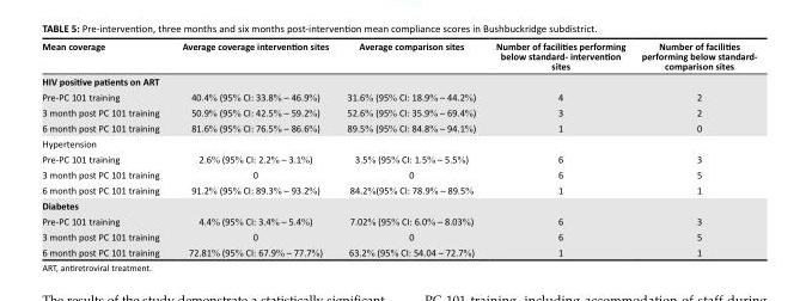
<table><thead><tr><td>Mean coverage</td><td>Average coverage intervention sites</td><td>Average comparison sites</td><td>Number of facilities performing below standard- intervention sites</td><td>Number of facilities performing below standard- comparison sites</td></tr></thead><tbody><tr><td colspan="5">HIV positive patients on ART</td></tr><tr><td>Pre-PC 101 training</td><td>40.4% (95% CI: 33.8% – 46.9%)</td><td>31.6% (95% CI: 18.9% – 44.2%)</td><td>4</td><td>2</td></tr><tr><td>3 month post PC 101 training</td><td>50.9% (95% CI: 42.5% – 59.2%)</td><td>52.6% (95% CI: 35.9% – 69.4%)</td><td>3</td><td>2</td></tr><tr><td>6 month post PC 101 training</td><td>81.6% (95% CI: 76.5% – 86.6%)</td><td>89.5% (95% CI: 84.8% – 94.1%)</td><td>1</td><td>0</td></tr><tr><td colspan="5">Hypertension</td></tr><tr><td>Pre-PC 101 training</td><td>2.6% (95% CI: 2.2% – 3.1%)</td><td>3.5% (95% CI: 1.5% – 5.5%)</td><td>6</td><td>3</td></tr><tr><td>3 month post PC 101 training</td><td>0</td><td>0</td><td>6</td><td>5</td></tr><tr><td>6 month post PC 101 training</td><td>91.2% (95% CI: 89.3% – 93.2%)</td><td>84.2%(95% CI: 78.9% – 89.5%</td><td>1</td><td>1</td></tr><tr><td colspan="5">Diabetes</td></tr><tr><td>Pre-PC 101 training</td><td>4.4% (95% CI: 3.4% – 5.4%)</td><td>7.02% (95% CI: 6.0% – 8.03%)</td><td>6</td><td>3</td></tr><tr><td>3 month post PC 101 training</td><td>0</td><td>0</td><td>6</td><td>5</td></tr><tr><td>6 month post PC 101 training</td><td>72.81% (95% CI: 67.9% – 77.7%)</td><td>63.2% (95% CI: 54.04 – 72.7%)</td><td>1</td><td>1</td></tr></tbody></table>